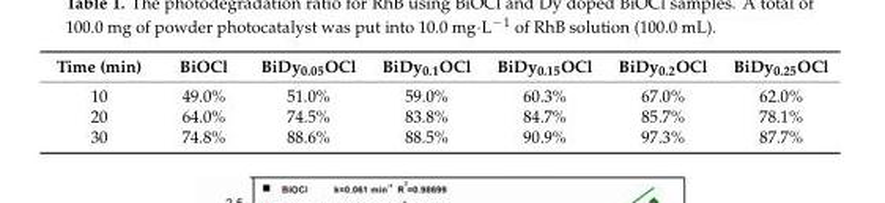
<table><thead><tr><td>Time (min)</td><td>BiOCl</td><td>BiDy<sub>0.05</sub>OCl</td><td>BiDy<sub>0.1</sub>OCl</td><td>BiDy<sub>0.15</sub>OCl</td><td>BiDy<sub>0.2</sub>OCl</td><td>BiDy<sub>0.25</sub>OCl</td></tr></thead><tbody><tr><td>10</td><td>49.0%</td><td>51.0%</td><td>59.0%</td><td>60.3%</td><td>67.0%</td><td>62.0%</td></tr><tr><td>20</td><td>64.0%</td><td>74.5%</td><td>83.8%</td><td>84.7%</td><td>85.7%</td><td>78.1%</td></tr><tr><td>30</td><td>74.8%</td><td>88.6%</td><td>88.5%</td><td>90.9%</td><td>97.3%</td><td>87.7%</td></tr></tbody></table>